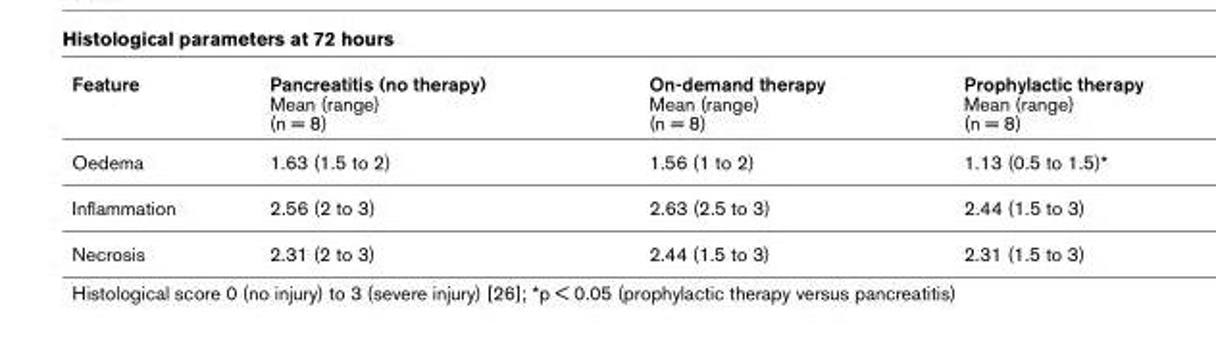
<table><thead><tr><td>Feature</td><td>Pancreatitis (no therapy) Mean (range) (n = 8)</td><td>On-demand therapy Mean (range) (n = 8)</td><td>Prophylactic therapy Mean (range) (n = 8)</td></tr></thead><tbody><tr><td>Oedema</td><td>1.63 (1.5 to 2)</td><td>1.56 (1 to 2)</td><td>1.13 (0.5 to 1.5)*</td></tr><tr><td>Inflammation</td><td>2.56 (2 to 3)</td><td>2.63 (2.5 to 3)</td><td>2.44 (1.5 to 3)</td></tr><tr><td>Necrosis</td><td>2.31 (2 to 3)</td><td>2.44 (1.5 to 3)</td><td>2.31 (1.5 to 3)</td></tr></tbody></table>